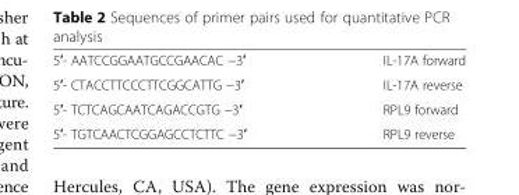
<table><tbody><tr><td>5′- AATCCGGAATGCCGAACAC −3′</td><td>IL-17A forward</td></tr><tr><td>5′- CTACCTTCCCTTCGGCATTG −3′</td><td>IL-17A reverse</td></tr><tr><td>5′- TCTCAGCAATCAGACCGTG −3′</td><td>RPL9 forward</td></tr><tr><td>5′- TGTCAACTCGGAGCCTCTTC −3′</td><td>RPL9 reverse</td></tr></tbody></table>